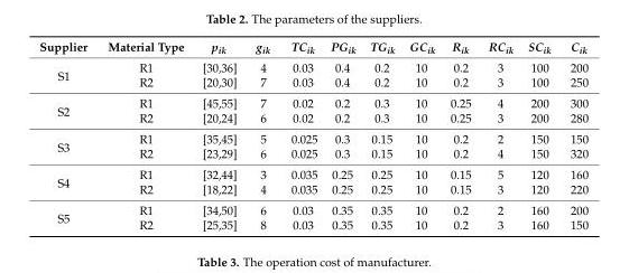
<table><thead><tr><td>Supplier</td><td>Material Type</td><td>p<sub>ik</sub></td><td>g<sub>ik</sub></td><td>TC<sub>ik</sub></td><td>PG<sub>ik</sub></td><td>TG<sub>ik</sub></td><td>GC<sub>ik</sub></td><td>R<sub>ik</sub></td><td>RC<sub>ik</sub></td><td>SC<sub>ik</sub></td><td>C<sub>ik</sub></td></tr></thead><tbody><tr><td rowspan="2">S1</td><td>R1</td><td>[30,36]</td><td>4</td><td>0.03</td><td>0.4</td><td>0.2</td><td>10</td><td>0.2</td><td>3</td><td>100</td><td>200</td></tr><tr><td>R2</td><td>[20,30]</td><td>7</td><td>0.03</td><td>0.4</td><td>0.2</td><td>10</td><td>0.2</td><td>3</td><td>100</td><td>250</td></tr><tr><td rowspan="2">S2</td><td>R1</td><td>[45,55]</td><td>7</td><td>0.02</td><td>0.2</td><td>0.3</td><td>10</td><td>0.25</td><td>4</td><td>200</td><td>300</td></tr><tr><td>R2</td><td>[20,24]</td><td>6</td><td>0.02</td><td>0.2</td><td>0.3</td><td>10</td><td>0.25</td><td>3</td><td>200</td><td>280</td></tr><tr><td rowspan="2">S3</td><td>R1</td><td>[35,45]</td><td>5</td><td>0.025</td><td>0.3</td><td>0.15</td><td>10</td><td>0.2</td><td>2</td><td>150</td><td>150</td></tr><tr><td>R2</td><td>[23,29]</td><td>6</td><td>0.025</td><td>0.3</td><td>0.15</td><td>10</td><td>0.2</td><td>4</td><td>150</td><td>320</td></tr><tr><td rowspan="2">S4</td><td>R1</td><td>[32,44]</td><td>3</td><td>0.035</td><td>0.25</td><td>0.25</td><td>10</td><td>0.15</td><td>5</td><td>120</td><td>160</td></tr><tr><td>R2</td><td>[18,22]</td><td>4</td><td>0.035</td><td>0.25</td><td>0.25</td><td>10</td><td>0.15</td><td>3</td><td>120</td><td>220</td></tr><tr><td rowspan="2">S5</td><td>R1</td><td>[34,50]</td><td>6</td><td>0.03</td><td>0.35</td><td>0.35</td><td>10</td><td>0.2</td><td>2</td><td>160</td><td>200</td></tr><tr><td>R2</td><td>[25,35]</td><td>8</td><td>0.03</td><td>0.35</td><td>0.35</td><td>10</td><td>0.2</td><td>3</td><td>160</td><td>150</td></tr></tbody></table>